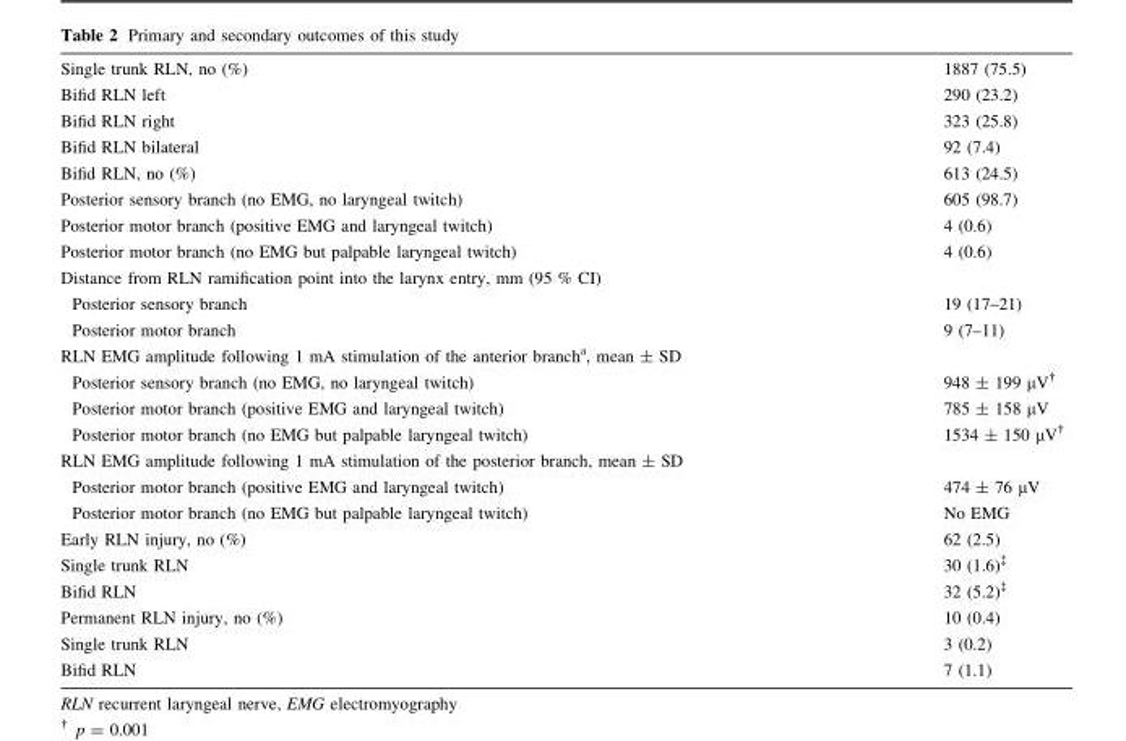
<table><tbody><tr><td>Single trunk RLN, no (%) Bifid RLN left Bifid RLN right Bifid RLN bilateral</td><td>1887 (75.5) 290 (23.2) 323 (25.8) 92 (7.4)</td></tr><tr><td>Bifid RLN, no (%) Posterior sensory branch (no EMG, no laryngeal twitch) Posterior motor branch (positive EMG and laryngeal twitch) Posterior motor branch (no EMG but palpable laryngeal twitch)</td><td>613 (24.5) 605 (98.7) 4 (0.6) 4 (0.6)</td></tr><tr><td colspan="2">Distance from RLN ramification point into the larynx entry, mm (95 % CI)</td></tr><tr><td>Posterior sensory branch</td><td>19 (17–21)</td></tr><tr><td>Posterior motor branch</td><td>9 (7–11)</td></tr><tr><td colspan="2">RLN EMG amplitude following 1 mA stimulation of the anterior branch<sup>a</sup>, mean ± SD</td></tr><tr><td>Posterior sensory branch (no EMG, no laryngeal twitch)</td><td>948 ± 199 µV<sup>†</sup></td></tr><tr><td>Posterior motor branch (positive EMG and laryngeal twitch)</td><td>785 ± 158 µV</td></tr><tr><td>Posterior motor branch (no EMG but palpable laryngeal twitch)</td><td>1534 ± 150 µV<sup>†</sup></td></tr><tr><td colspan="2">RLN EMG amplitude following 1 mA stimulation of the posterior branch, mean ± SD</td></tr><tr><td>Posterior motor branch (positive EMG and laryngeal twitch)</td><td>474 ± 76 µV</td></tr><tr><td>Posterior motor branch (no EMG but palpable laryngeal twitch)</td><td>No EMG</td></tr><tr><td>Early RLN injury, no (%) Single trunk RLN Bifid RLN</td><td>62 (2.5) 30 (1.6)<sup>‡</sup> 32 (5.2)<sup>‡</sup></td></tr><tr><td>Permanent RLN injury, no (%) Single trunk RLN Bifid RLN</td><td>10 (0.4) 3 (0.2) 7 (1.1)</td></tr></tbody></table>